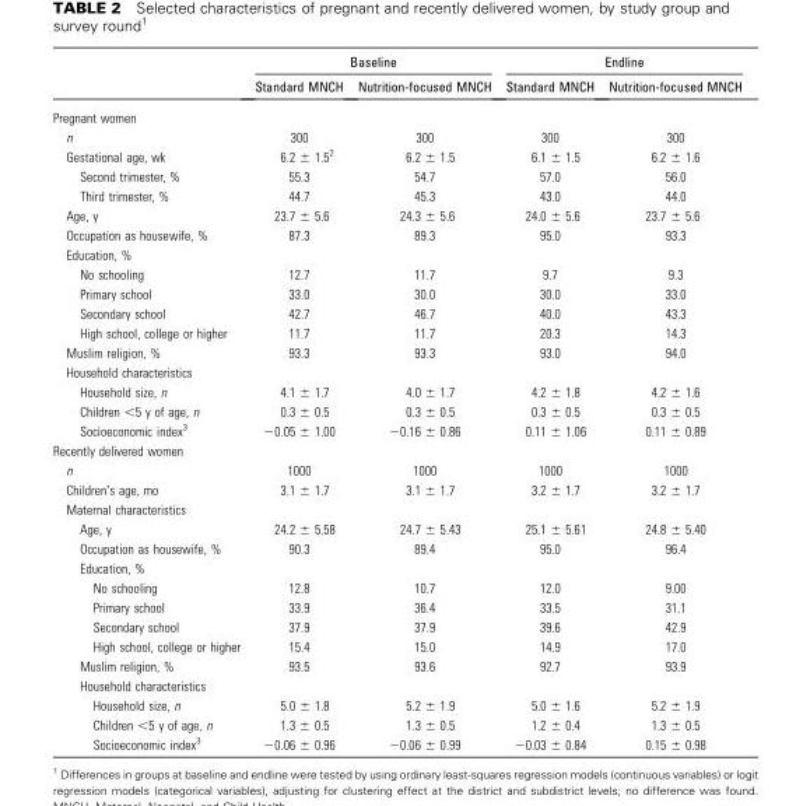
<table><thead><tr><td rowspan="2"></td><td colspan="2">Baseline</td><td colspan="2">Endline</td></tr><tr><td>Standard MNCH</td><td>Nutrition-focused MNCH</td><td>Standard MNCH</td><td>Nutrition-focused MNCH</td></tr></thead><tbody><tr><td colspan="5">Pregnant women</td></tr><tr><td>n</td><td>300</td><td>300</td><td>300</td><td>300</td></tr><tr><td>Gestational age, wk</td><td>6.2 ± 1.5<sup>2</sup></td><td>6.2 ± 1.5</td><td>6.1 ± 1.5</td><td>6.2 ± 1.6</td></tr><tr><td>Second trimester, %</td><td>55.3</td><td>54.7</td><td>57.0</td><td>56.0</td></tr><tr><td>Third trimester, %</td><td>44.7</td><td>45.3</td><td>43.0</td><td>44.0</td></tr><tr><td>Age, y</td><td>23.7 ± 5.6</td><td>24.3 ± 5.6</td><td>24.0 ± 5.6</td><td>23.7 ± 5.6</td></tr><tr><td>Occupation as housewife, %</td><td>87.3</td><td>89.3</td><td>95.0</td><td>93.3</td></tr><tr><td colspan="5">Education, %</td></tr><tr><td>No schooling</td><td>12.7</td><td>11.7</td><td>9.7</td><td>9.3</td></tr><tr><td>Primary school</td><td>33.0</td><td>30.0</td><td>30.0</td><td>33.0</td></tr><tr><td>Secondary school</td><td>42.7</td><td>46.7</td><td>40.0</td><td>43.3</td></tr><tr><td>High school, college or higher</td><td>11.7</td><td>11.7</td><td>20.3</td><td>14.3</td></tr><tr><td>Muslim religion, %</td><td>93.3</td><td>93.3</td><td>93.0</td><td>94.0</td></tr><tr><td colspan="5">Household characteristics</td></tr><tr><td>Household size, n</td><td>4.1 ± 1.7</td><td>4.0 ± 1.7</td><td>4.2 ± 1.8</td><td>4.2 ± 1.6</td></tr><tr><td>Children &lt;5 y of age, n</td><td>0.3 ± 0.5</td><td>0.3 ± 0.5</td><td>0.3 ± 0.5</td><td>0.3 ± 0.5</td></tr><tr><td>Socioeconomic index<sup>3</sup></td><td>−0.05 ± 1.00</td><td>−0.16 ± 0.86</td><td>0.11 ± 1.06</td><td>0.11 ± 0.89</td></tr><tr><td colspan="5">Recently delivered women</td></tr><tr><td>n</td><td>1000</td><td>1000</td><td>1000</td><td>1000</td></tr><tr><td>Children’s age, mo</td><td>3.1 ± 1.7</td><td>3.1 ± 1.7</td><td>3.2 ± 1.7</td><td>3.2 ± 1.7</td></tr><tr><td colspan="5">Maternal characteristics</td></tr><tr><td>Age, y</td><td>24.2 ± 5.58</td><td>24.7 ± 5.43</td><td>25.1 ± 5.61</td><td>24.8 ± 5.40</td></tr><tr><td>Occupation as housewife, %</td><td>90.3</td><td>89.4</td><td>95.0</td><td>96.4</td></tr><tr><td colspan="5">Education, %</td></tr><tr><td>No schooling</td><td>12.8</td><td>10.7</td><td>12.0</td><td>9.00</td></tr><tr><td>Primary school</td><td>33.9</td><td>36.4</td><td>33.5</td><td>31.1</td></tr><tr><td>Secondary school</td><td>37.9</td><td>37.9</td><td>39.6</td><td>42.9</td></tr><tr><td>High school, college or higher</td><td>15.4</td><td>15.0</td><td>14.9</td><td>17.0</td></tr><tr><td>Muslim religion, %</td><td>93.5</td><td>93.6</td><td>92.7</td><td>93.9</td></tr><tr><td colspan="5">Household characteristics</td></tr><tr><td>Household size, n</td><td>5.0 ± 1.8</td><td>5.2 ± 1.9</td><td>5.0 ± 1.6</td><td>5.2 ± 1.9</td></tr><tr><td>Children &lt;5 y of age, n</td><td>1.3 ± 0.5</td><td>1.3 ± 0.5</td><td>1.2 ± 0.4</td><td>1.3 ± 0.5</td></tr><tr><td>Socioeconomic index<sup>3</sup></td><td>−0.06 ± 0.96</td><td>−0.06 ± 0.99</td><td>−0.03 ± 0.84</td><td>0.15 ± 0.98</td></tr></tbody></table>